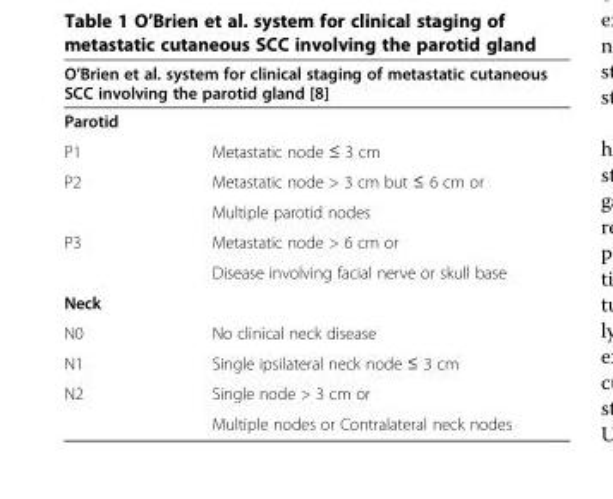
<table><thead><tr><td colspan="2">O’Brien et al. system for clinical staging of metastatic cutaneous SCC involving the parotid gland [8]</td></tr><tr><td>Parotid</td><td></td></tr></thead><tbody><tr><td>P1</td><td>Metastatic node ≤ 3 cm</td></tr><tr><td rowspan="2">P2</td><td>Metastatic node &gt; 3 cm but ≤ 6 cm or</td></tr><tr><td>Multiple parotid nodes</td></tr><tr><td rowspan="2">P3</td><td>Metastatic node &gt; 6 cm or</td></tr><tr><td>Disease involving facial nerve or skull base</td></tr><tr><td colspan="2">Neck</td></tr><tr><td>N0</td><td>No clinical neck disease</td></tr><tr><td>N1</td><td>Single ipsilateral neck node ≤ 3 cm</td></tr><tr><td rowspan="2">N2</td><td>Single node &gt; 3 cm or</td></tr><tr><td>Multiple nodes or Contralateral neck nodes</td></tr></tbody></table>